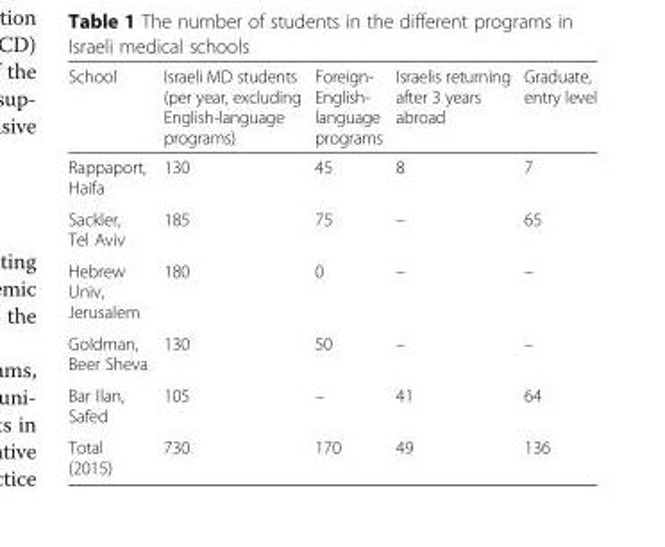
<table><thead><tr><td>School</td><td>Israeli MD students (per year, excluding English-language programs)</td><td>Foreign- English- language programs</td><td>Israelis returning after 3 years abroad</td><td>Graduate, entry level</td></tr></thead><tbody><tr><td>Rappaport, Haifa</td><td>130</td><td>45</td><td>8</td><td>7</td></tr><tr><td>Sackler, Tel Aviv</td><td>185</td><td>75</td><td>–</td><td>65</td></tr><tr><td>Hebrew Univ, Jerusalem</td><td>180</td><td>0</td><td>–</td><td>–</td></tr><tr><td>Goldman, Beer Sheva</td><td>130</td><td>50</td><td>–</td><td>–</td></tr><tr><td>Bar Ilan, Safed</td><td>105</td><td>–</td><td>41</td><td>64</td></tr><tr><td>Total (2015)</td><td>730</td><td>170</td><td>49</td><td>136</td></tr></tbody></table>